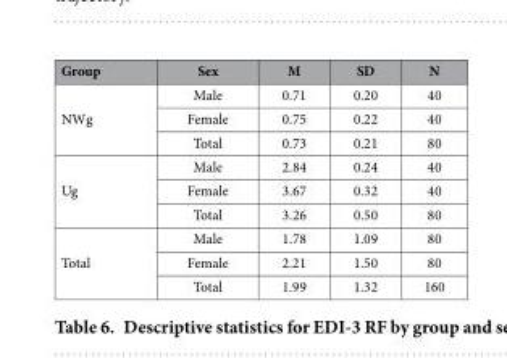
<table><thead><tr><td>Group</td><td>Sex</td><td>M</td><td>SD</td><td>N</td></tr></thead><tbody><tr><td rowspan="3">NWg</td><td>Male</td><td>0.71</td><td>0.20</td><td>40</td></tr><tr><td>Female</td><td>0.75</td><td>0.22</td><td>40</td></tr><tr><td>Total</td><td>0.73</td><td>0.21</td><td>80</td></tr><tr><td rowspan="3">Ug</td><td>Male</td><td>2.84</td><td>0.24</td><td>40</td></tr><tr><td>Female</td><td>3.67</td><td>0.32</td><td>40</td></tr><tr><td>Total</td><td>3.26</td><td>0.50</td><td>80</td></tr><tr><td rowspan="3">Total</td><td>Male</td><td>1.78</td><td>1.09</td><td>80</td></tr><tr><td>Female</td><td>2.21</td><td>1.50</td><td>80</td></tr><tr><td>Total</td><td>1.99</td><td>1.32</td><td>160</td></tr></tbody></table>